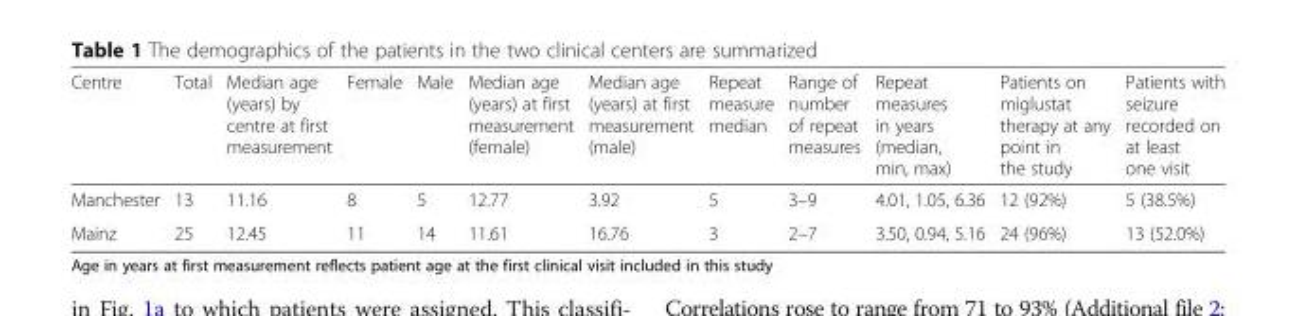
<table><thead><tr><td>Centre</td><td>Total</td><td>Median age (years) by centre at first measurement</td><td>Female</td><td>Male</td><td>Median age (years) at first measurement (female)</td><td>Median age (years) at first measurement (male)</td><td>Repeat measure median</td><td>Range of number of repeat measures</td><td>Repeat measures in years (median, min, max)</td><td>Patients on miglustat therapy at any point in the study</td><td>Patients with seizure recorded on at least one visit</td></tr></thead><tbody><tr><td>Manchester</td><td>13</td><td>11.16</td><td>8</td><td>5</td><td>12.77</td><td>3.92</td><td>5</td><td>3–9</td><td>4.01, 1.05, 6.36</td><td>12 (92%)</td><td>5 (38.5%)</td></tr><tr><td>Mainz</td><td>25</td><td>12.45</td><td>11</td><td>14</td><td>11.61</td><td>16.76</td><td>3</td><td>2–7</td><td>3.50, 0.94, 5.16</td><td>24 (96%)</td><td>13 (52.0%)</td></tr></tbody></table>